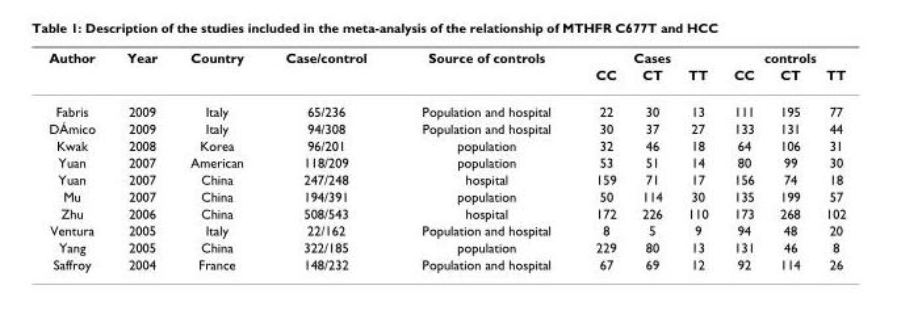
<table><thead><tr><td rowspan="2">Author</td><td rowspan="2">Year</td><td rowspan="2">Country</td><td rowspan="2">Case/control</td><td rowspan="2">Source of controls</td><td colspan="3">Cases</td><td colspan="3">controls</td></tr><tr><td>CC</td><td>CT</td><td>TT</td><td>CC</td><td>CT</td><td>TT</td></tr></thead><tbody><tr><td>Fabris</td><td>2009</td><td>Italy</td><td>65/236</td><td>Population and hospital</td><td>22</td><td>30</td><td>13</td><td>111</td><td>195</td><td>77</td></tr><tr><td>DÁmico</td><td>2009</td><td>Italy</td><td>94/308</td><td>Population and hospital</td><td>30</td><td>37</td><td>27</td><td>133</td><td>131</td><td>44</td></tr><tr><td>Kwak</td><td>2008</td><td>Korea</td><td>96/201</td><td>population</td><td>32</td><td>46</td><td>18</td><td>64</td><td>106</td><td>31</td></tr><tr><td>Yuan</td><td>2007</td><td>American</td><td>118/209</td><td>population</td><td>53</td><td>51</td><td>14</td><td>80</td><td>99</td><td>30</td></tr><tr><td>Yuan</td><td>2007</td><td>China</td><td>247/248</td><td>hospital</td><td>159</td><td>71</td><td>17</td><td>156</td><td>74</td><td>18</td></tr><tr><td>Mu</td><td>2007</td><td>China</td><td>194/391</td><td>population</td><td>50</td><td>114</td><td>30</td><td>135</td><td>199</td><td>57</td></tr><tr><td>Zhu</td><td>2006</td><td>China</td><td>508/543</td><td>hospital</td><td>172</td><td>226</td><td>110</td><td>173</td><td>268</td><td>102</td></tr><tr><td>Ventura</td><td>2005</td><td>Italy</td><td>22/162</td><td>Population and hospital</td><td>8</td><td>5</td><td>9</td><td>94</td><td>48</td><td>20</td></tr><tr><td>Yang</td><td>2005</td><td>China</td><td>322/185</td><td>population</td><td>229</td><td>80</td><td>13</td><td>131</td><td>46</td><td>8</td></tr><tr><td>Saffroy</td><td>2004</td><td>France</td><td>148/232</td><td>Population and hospital</td><td>67</td><td>69</td><td>12</td><td>92</td><td>114</td><td>26</td></tr></tbody></table>